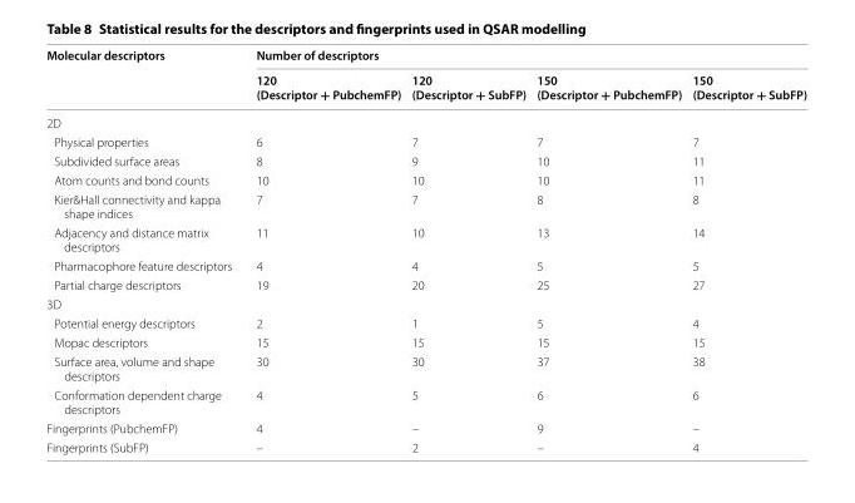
<table><thead><tr><td rowspan="2">Molecular descriptors</td><td colspan="4">Number of descriptors</td></tr><tr><td>120 (Descriptor + PubchemFP)</td><td>120 (Descriptor + SubFP)</td><td>150 (Descriptor + PubchemFP)</td><td>150 (Descriptor + SubFP)</td></tr></thead><tbody><tr><td colspan="5">2D</td></tr><tr><td>Physical properties</td><td>6</td><td>7</td><td>7</td><td>7</td></tr><tr><td>Subdivided surface areas</td><td>8</td><td>9</td><td>10</td><td>11</td></tr><tr><td>Atom counts and bond counts</td><td>10</td><td>10</td><td>10</td><td>11</td></tr><tr><td>Kier&amp;Hall connectivity and kappa shape indices</td><td>7</td><td>7</td><td>8</td><td>8</td></tr><tr><td>Adjacency and distance matrix descriptors</td><td>11</td><td>10</td><td>13</td><td>14</td></tr><tr><td>Pharmacophore feature descriptors</td><td>4</td><td>4</td><td>5</td><td>5</td></tr><tr><td>Partial charge descriptors</td><td>19</td><td>20</td><td>25</td><td>27</td></tr><tr><td colspan="5">3D</td></tr><tr><td>Potential energy descriptors</td><td>2</td><td>1</td><td>5</td><td>4</td></tr><tr><td>Mopac descriptors</td><td>15</td><td>15</td><td>15</td><td>15</td></tr><tr><td>Surface area, volume and shape descriptors</td><td>30</td><td>30</td><td>37</td><td>38</td></tr><tr><td>Conformation dependent charge descriptors</td><td>4</td><td>5</td><td>6</td><td>6</td></tr><tr><td>Fingerprints (PubchemFP)</td><td>4</td><td>–</td><td>9</td><td>–</td></tr><tr><td>Fingerprints (SubFP)</td><td>–</td><td>2</td><td>–</td><td>4</td></tr></tbody></table>